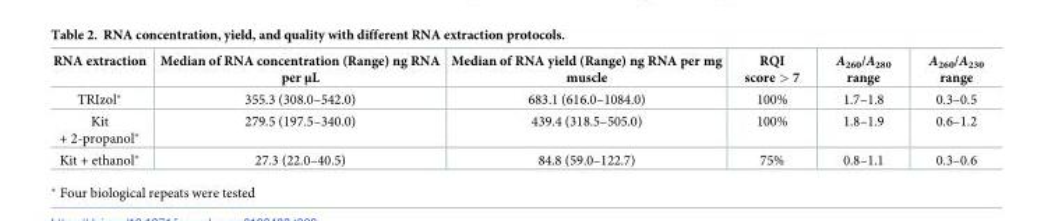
<table><thead><tr><td>RNA extraction</td><td>Median of RNA concentration (Range) ng RNA per μL</td><td>Median of RNA yield (Range) ng RNA per mg muscle</td><td>RQI score &gt; 7</td><td>A<sub>260</sub>/A<sub>280</sub> range</td><td>A<sub>260</sub>/A<sub>230</sub> range</td></tr></thead><tbody><tr><td>TRIzol*</td><td>355.3 (308.0–542.0)</td><td>683.1 (616.0–1084.0)</td><td>100%</td><td>1.7–1.8</td><td>0.3–0.5</td></tr><tr><td>Kit + 2-propanol*</td><td>279.5 (197.5–340.0)</td><td>439.4 (318.5–505.0)</td><td>100%</td><td>1.8–1.9</td><td>0.6–1.2</td></tr><tr><td>Kit + ethanol*</td><td>27.3 (22.0–40.5)</td><td>84.8 (59.0–122.7)</td><td>75%</td><td>0.8–1.1</td><td>0.3–0.6</td></tr></tbody></table>